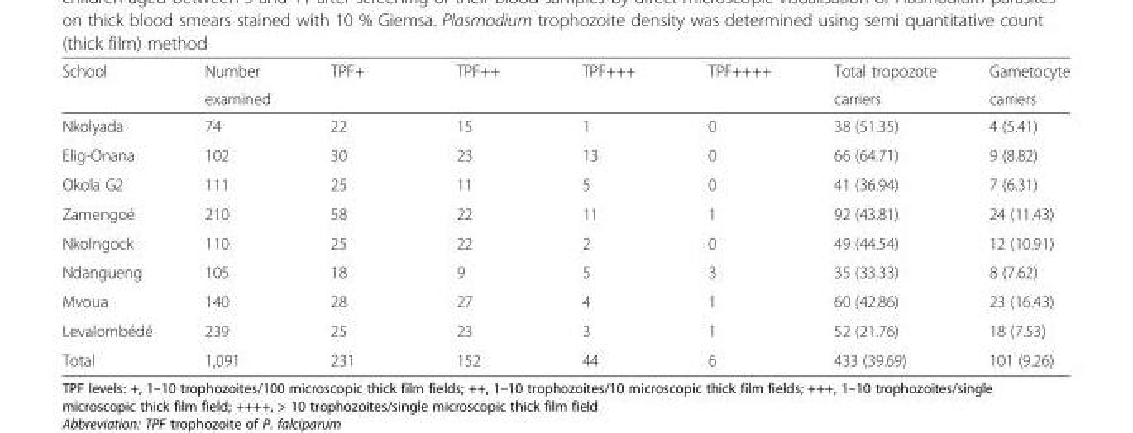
<table><thead><tr><td rowspan="2">School</td><td rowspan="2">Number examined</td><td rowspan="2">TPF+</td><td rowspan="2">TPF++</td><td rowspan="2">TPF+++</td><td rowspan="2">TPF++++</td><td rowspan="2">Total tropozote carriers</td><td rowspan="2">Gametocyte carriers</td></tr><tr></tr></thead><tbody><tr><td>Nkolyada</td><td>74</td><td>22</td><td>15</td><td>1</td><td>0</td><td>38 (51.35)</td><td>4 (5.41)</td></tr><tr><td>Elig-Onana</td><td>102</td><td>30</td><td>23</td><td>13</td><td>0</td><td>66 (64.71)</td><td>9 (8.82)</td></tr><tr><td>Okola G2</td><td>111</td><td>25</td><td>11</td><td>5</td><td>0</td><td>41 (36.94)</td><td>7 (6.31)</td></tr><tr><td>Zamengoé</td><td>210</td><td>58</td><td>22</td><td>11</td><td>1</td><td>92 (43.81)</td><td>24 (11.43)</td></tr><tr><td>Nkolngock</td><td>110</td><td>25</td><td>22</td><td>2</td><td>0</td><td>49 (44.54)</td><td>12 (10.91)</td></tr><tr><td>Ndangueng</td><td>105</td><td>18</td><td>9</td><td>5</td><td>3</td><td>35 (33.33)</td><td>8 (7.62)</td></tr><tr><td>Mvoua</td><td>140</td><td>28</td><td>27</td><td>4</td><td>1</td><td>60 (42.86)</td><td>23 (16.43)</td></tr><tr><td>Levalombédé</td><td>239</td><td>25</td><td>23</td><td>3</td><td>1</td><td>52 (21.76)</td><td>18 (7.53)</td></tr><tr><td>Total</td><td>1,091</td><td>231</td><td>152</td><td>44</td><td>6</td><td>433 (39.69)</td><td>101 (9.26)</td></tr></tbody></table>